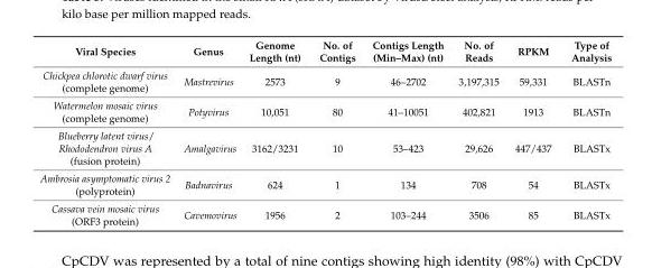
<table><thead><tr><td>Viral Species</td><td>Genus</td><td>Genome Length (nt)</td><td>No. of Contigs</td><td>Contigs Length (Min–Max) (nt)</td><td>No. of Reads</td><td>RPKM</td><td>Type of Analysis</td></tr></thead><tbody><tr><td>Chickpea chlorotic dwarf virus (complete genome)</td><td>Mastrevirus</td><td>2573</td><td>9</td><td>46–2702</td><td>3,197,315</td><td>59,331</td><td>BLASTn</td></tr><tr><td>Watermelon mosaic virus (complete genome)</td><td>Potyvirus</td><td>10,051</td><td>80</td><td>41–10051</td><td>402,821</td><td>1913</td><td>BLASTn</td></tr><tr><td>Blueberry latent virus/ Rhododendron virus A (fusion protein)</td><td>Amalgavirus</td><td>3162/3231</td><td>10</td><td>53–423</td><td>29,626</td><td>447/437</td><td>BLASTx</td></tr><tr><td>Ambrosia asymptomatic virus 2 (polyprotein)</td><td>Badnavirus</td><td>624</td><td>1</td><td>134</td><td>708</td><td>54</td><td>BLASTx</td></tr><tr><td>Cassava vein mosaic virus (ORF3 protein)</td><td>Cavemovirus</td><td>1956</td><td>2</td><td>103–244</td><td>3506</td><td>85</td><td>BLASTx</td></tr></tbody></table>